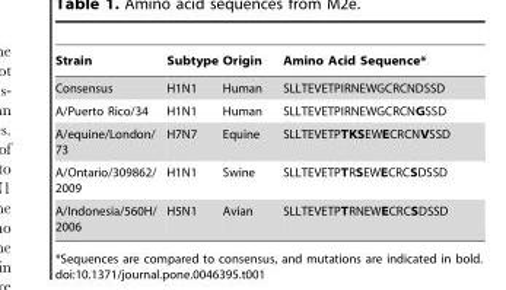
<table><thead><tr><td>Strain</td><td>Subtype</td><td>Origin</td><td>Amino Acid Sequence*</td></tr></thead><tbody><tr><td>Consensus</td><td>H1N1</td><td>Human</td><td>SLLTEVETPIRNEWGCRCNDSSD</td></tr><tr><td>A/Puerto Rico/34</td><td>H1N1</td><td>Human</td><td>SLLTEVETPIRNEWGCRCNGSSD</td></tr><tr><td>A/equine/London/ 73</td><td>H7N7</td><td>Equine</td><td>SLLTEVETPTKSEWECRCNVSSD</td></tr><tr><td>A/Ontario/309862/ 2009</td><td>H1N1</td><td>Swine</td><td>SLLTEVETPTRSEWECRCSDSSD</td></tr><tr><td>A/Indonesia/560H/ 2006</td><td>H5N1</td><td>Avian</td><td>SLLTEVETPTRNEWECRCSDSSD</td></tr></tbody></table>